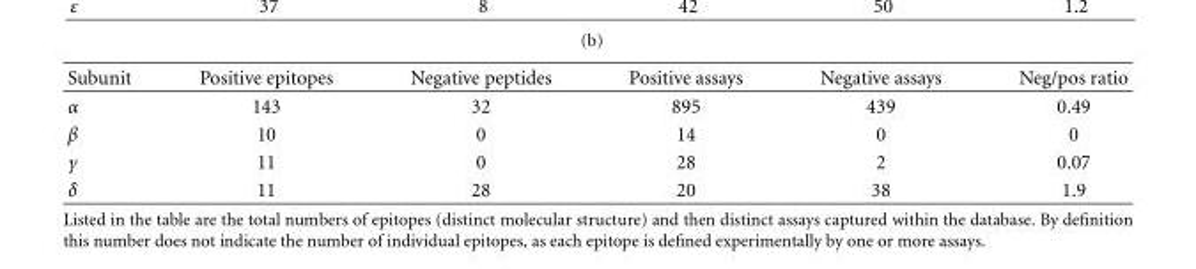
<table><thead><tr><td>Subunit</td><td>Positive epitopes</td><td>Negative peptides</td><td>Positive assays</td><td>Negative assays</td><td>Neg/pos ratio</td></tr></thead><tbody><tr><td>α</td><td>143</td><td>32</td><td>895</td><td>439</td><td>0.49</td></tr><tr><td>β</td><td>10</td><td>0</td><td>14</td><td>0</td><td>0</td></tr><tr><td>γ</td><td>11</td><td>0</td><td>28</td><td>2</td><td>0.07</td></tr><tr><td>δ</td><td>11</td><td>28</td><td>20</td><td>38</td><td>1.9</td></tr></tbody></table>